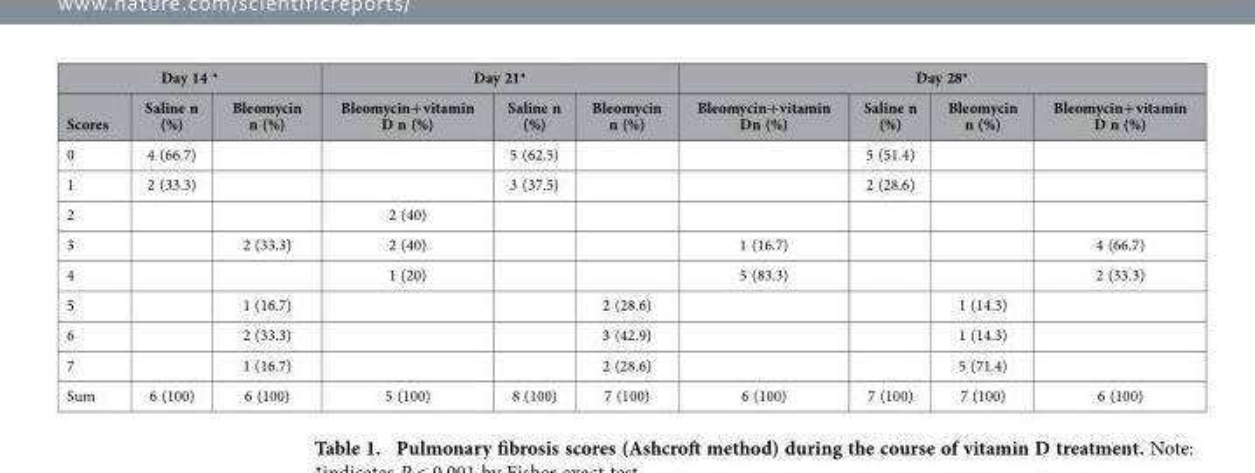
<table><thead><tr><td colspan="3">Day 14 *</td><td colspan="3">Day 21*</td><td colspan="4">Day 28*</td></tr><tr><td>Scores</td><td>Saline n (%)</td><td>Bleomycin n (%)</td><td>Bleomycin+ vitamin D n (%)</td><td>Saline n (%)</td><td>Bleomycin n (%)</td><td>Bleomycin+ vitamin Dn (%)</td><td>Saline n (%)</td><td>Bleomycin n (%)</td><td>Bleomycin+ vitamin D n (%)</td></tr></thead><tbody><tr><td>0</td><td>4 (66.7)</td><td></td><td></td><td>5 (62.5)</td><td></td><td></td><td>5 (51.4)</td><td></td><td></td></tr><tr><td>1</td><td>2 (33.3)</td><td></td><td></td><td>3 (37.5)</td><td></td><td></td><td>2 (28.6)</td><td></td><td></td></tr><tr><td>2</td><td></td><td></td><td>2 (40)</td><td></td><td></td><td></td><td></td><td></td><td></td></tr><tr><td>3</td><td></td><td>2 (33.3)</td><td>2 (40)</td><td></td><td></td><td>1 (16.7)</td><td></td><td></td><td>4 (66.7)</td></tr><tr><td>4</td><td></td><td></td><td>1 (20)</td><td></td><td></td><td>5 (83.3)</td><td></td><td></td><td>2 (33.3)</td></tr><tr><td>5</td><td></td><td>1 (16.7)</td><td></td><td></td><td>2 (28.6)</td><td></td><td></td><td>1 (14.3)</td><td></td></tr><tr><td>6</td><td></td><td>2 (33.3)</td><td></td><td></td><td>3 (42.9)</td><td></td><td></td><td>1 (14.3)</td><td></td></tr><tr><td>7</td><td></td><td>1 (16.7)</td><td></td><td></td><td>2 (28.6)</td><td></td><td></td><td>5 (71.4)</td><td></td></tr><tr><td>Sum</td><td>6 (100)</td><td>6 (100)</td><td>5 (100)</td><td>8 (100)</td><td>7 (100)</td><td>6 (100)</td><td>7 (100)</td><td>7 (100)</td><td>6 (100)</td></tr></tbody></table>